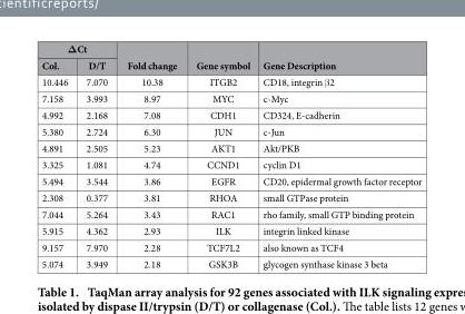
<table><thead><tr><td colspan="2">ΔCt</td><td rowspan="2">Fold change</td><td rowspan="2">Gene symbol</td><td rowspan="2">Gene Description</td></tr><tr><td>Col.</td><td>D/T</td></tr></thead><tbody><tr><td>10.446</td><td>7.070</td><td>10.38</td><td>ITGB2</td><td>CD18, integrin β 2</td></tr><tr><td>7.158</td><td>3.993</td><td>8.97</td><td>MYC</td><td>c-Myc</td></tr><tr><td>4.992</td><td>2.168</td><td>7.08</td><td>CDH1</td><td>CD324, E-cadherin</td></tr><tr><td>5.380</td><td>2.724</td><td>6.30</td><td>JUN</td><td>c-Jun</td></tr><tr><td>4.891</td><td>2.505</td><td>5.23</td><td>AKT1</td><td>Akt/PKB</td></tr><tr><td>3.325</td><td>1.081</td><td>4.74</td><td>CCND1</td><td>cyclin D1</td></tr><tr><td>5.494</td><td>3.544</td><td>3.86</td><td>EGFR</td><td>CD20, epidermal growth factor receptor</td></tr><tr><td>2.308</td><td>0.377</td><td>3.81</td><td>RHOA</td><td>small GTPase protein</td></tr><tr><td>7.044</td><td>5.264</td><td>3.43</td><td>RAC1</td><td>rho family, small GTP binding protein</td></tr><tr><td>5.915</td><td>4.362</td><td>2.93</td><td>ILK</td><td>integrin linked kinase</td></tr><tr><td>9.157</td><td>7.970</td><td>2.28</td><td>TCF7L2</td><td>also known as TCF4</td></tr><tr><td>5.074</td><td>3.949</td><td>2.18</td><td>GSK3B</td><td>glycogen synthase kinase 3 beta</td></tr></tbody></table>